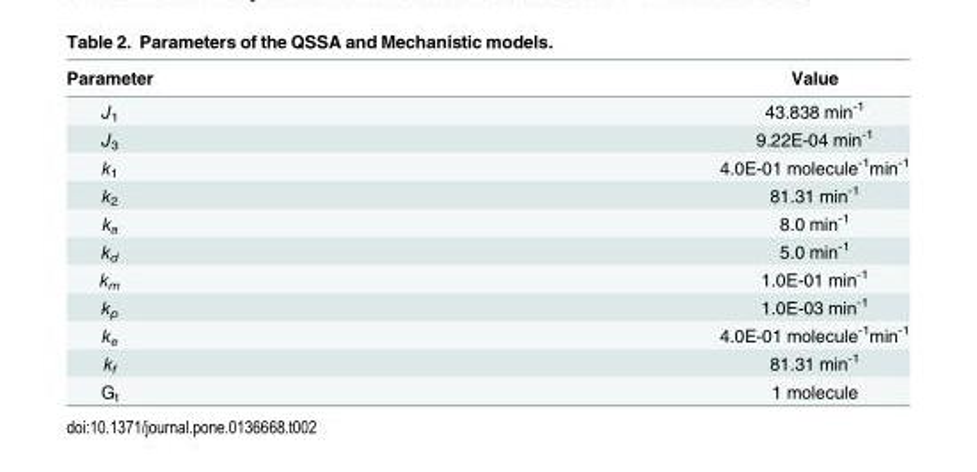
<table><thead><tr><td>Parameter</td><td>Value</td></tr></thead><tbody><tr><td>J<sub>1</sub></td><td>43.838 min<sup>-1</sup></td></tr><tr><td>J<sub>3</sub></td><td>9.22E-04 min<sup>-1</sup></td></tr><tr><td>k<sub>1</sub></td><td>4.0E-01 molecule<sup>-1</sup>min<sup>-1</sup></td></tr><tr><td>k<sub>2</sub></td><td>81.31 min<sup>-1</sup></td></tr><tr><td>k<sub>a</sub></td><td>8.0 min<sup>-1</sup></td></tr><tr><td>k<sub>d</sub></td><td>5.0 min<sup>-1</sup></td></tr><tr><td>k<sub>m</sub></td><td>1.0E-01 min<sup>-1</sup></td></tr><tr><td>k<sub>p</sub></td><td>1.0E-03 min<sup>-1</sup></td></tr><tr><td>k<sub>e</sub></td><td>4.0E-01 molecule<sup>-1</sup>min<sup>-1</sup></td></tr><tr><td>k<sub>f</sub></td><td>81.31 min<sup>-1</sup></td></tr><tr><td>G<sub>t</sub></td><td>1 molecule</td></tr></tbody></table>